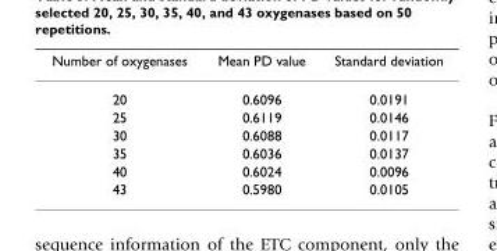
<table><thead><tr><td>Number of oxygenases</td><td>Mean PD value</td><td>Standard deviation</td></tr></thead><tbody><tr><td>20</td><td>0.6096</td><td>0.0191</td></tr><tr><td>25</td><td>0.6119</td><td>0.0146</td></tr><tr><td>30</td><td>0.6088</td><td>0.0117</td></tr><tr><td>35</td><td>0.6036</td><td>0.0137</td></tr><tr><td>40</td><td>0.6024</td><td>0.0096</td></tr><tr><td>43</td><td>0.5980</td><td>0.0105</td></tr></tbody></table>